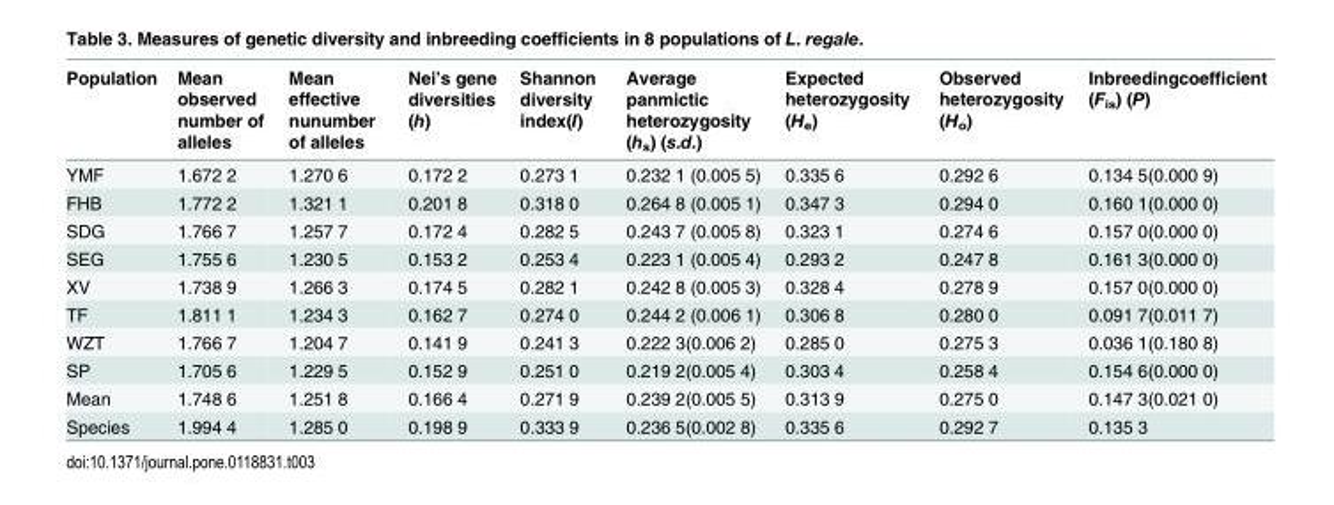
<table><thead><tr><td>Population</td><td>Mean observed number of alleles</td><td>Mean effective nunumber of alleles</td><td>Nei’s gene diversities (h)</td><td>Shannon diversity index(I)</td><td>Average panmictic heterozygosity (h<sub>s</sub>) (s.d.)</td><td>Expected heterozygosity (H<sub>e</sub>)</td><td>Observed heterozygosity (H<sub>o</sub>)</td><td>Inbreedingcoefficient (F<sub>is</sub>) (P)</td></tr></thead><tbody><tr><td>YMF</td><td>1.672 2</td><td>1.270 6</td><td>0.172 2</td><td>0.273 1</td><td>0.232 1 (0.005 5)</td><td>0.335 6</td><td>0.292 6</td><td>0.134 5(0.000 9)</td></tr><tr><td>FHB</td><td>1.772 2</td><td>1.321 1</td><td>0.201 8</td><td>0.318 0</td><td>0.264 8 (0.005 1)</td><td>0.347 3</td><td>0.294 0</td><td>0.160 1(0.000 0)</td></tr><tr><td>SDG</td><td>1.766 7</td><td>1.257 7</td><td>0.172 4</td><td>0.282 5</td><td>0.243 7 (0.005 8)</td><td>0.323 1</td><td>0.274 6</td><td>0.157 0(0.000 0)</td></tr><tr><td>SEG</td><td>1.755 6</td><td>1.230 5</td><td>0.153 2</td><td>0.253 4</td><td>0.223 1 (0.005 4)</td><td>0.293 2</td><td>0.247 8</td><td>0.161 3(0.000 0)</td></tr><tr><td>XV</td><td>1.738 9</td><td>1.266 3</td><td>0.174 5</td><td>0.282 1</td><td>0.242 8 (0.005 3)</td><td>0.328 4</td><td>0.278 9</td><td>0.157 0(0.000 0)</td></tr><tr><td>TF</td><td>1.811 1</td><td>1.234 3</td><td>0.162 7</td><td>0.274 0</td><td>0.244 2 (0.006 1)</td><td>0.306 8</td><td>0.280 0</td><td>0.091 7(0.011 7)</td></tr><tr><td>WZT</td><td>1.766 7</td><td>1.204 7</td><td>0.141 9</td><td>0.241 3</td><td>0.222 3(0.006 2)</td><td>0.285 0</td><td>0.275 3</td><td>0.036 1(0.180 8)</td></tr><tr><td>SP</td><td>1.705 6</td><td>1.229 5</td><td>0.152 9</td><td>0.251 0</td><td>0.219 2(0.005 4)</td><td>0.303 4</td><td>0.258 4</td><td>0.154 6(0.000 0)</td></tr><tr><td>Mean</td><td>1.748 6</td><td>1.251 8</td><td>0.166 4</td><td>0.271 9</td><td>0.239 2(0.005 5)</td><td>0.313 9</td><td>0.275 0</td><td>0.147 3(0.021 0)</td></tr><tr><td>Species</td><td>1.994 4</td><td>1.285 0</td><td>0.198 9</td><td>0.333 9</td><td>0.236 5(0.002 8)</td><td>0.335 6</td><td>0.292 7</td><td>0.135 3</td></tr></tbody></table>